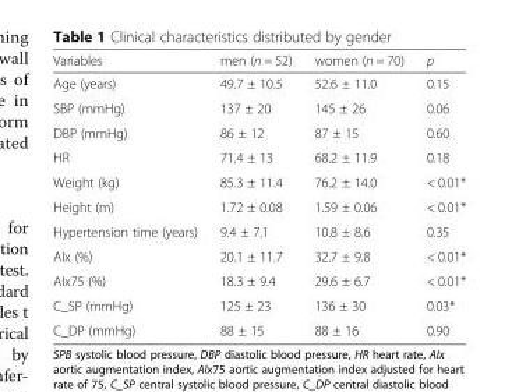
<table><thead><tr><td>Variables</td><td>men (n = 52)</td><td>women (n = 70)</td><td>p</td></tr></thead><tbody><tr><td>Age (years)</td><td>49.7 ± 10.5</td><td>52.6 ± 11.0</td><td>0.15</td></tr><tr><td>SBP (mmHg)</td><td>137 ± 20</td><td>145 ± 26</td><td>0.06</td></tr><tr><td>DBP (mmHg)</td><td>86 ± 12</td><td>87 ± 15</td><td>0.60</td></tr><tr><td>HR</td><td>71.4 ± 13</td><td>68.2 ± 11.9</td><td>0.18</td></tr><tr><td>Weight (kg)</td><td>85.3 ± 11.4</td><td>76.2 ± 14.0</td><td>&lt; 0.01*</td></tr><tr><td>Height (m)</td><td>1.72 ± 0.08</td><td>1.59 ± 0.06</td><td>&lt; 0.01*</td></tr><tr><td>Hypertension time (years)</td><td>9.4 ± 7.1</td><td>10.8 ± 8.6</td><td>0.35</td></tr><tr><td>AIx (%)</td><td>20.1 ± 11.7</td><td>32.7 ± 9.8</td><td>&lt; 0.01*</td></tr><tr><td>AIx75 (%)</td><td>18.3 ± 9.4</td><td>29.6 ± 6.7</td><td>&lt; 0.01*</td></tr><tr><td>C_SP (mmHg)</td><td>125 ± 23</td><td>136 ± 30</td><td>0.03*</td></tr><tr><td>C_DP (mmHg)</td><td>88 ± 15</td><td>88 ± 16</td><td>0.90</td></tr></tbody></table>